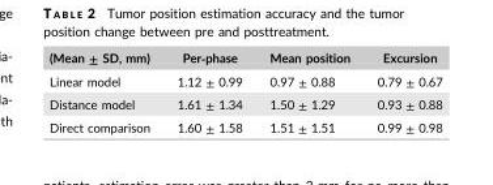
<table><thead><tr><td>(Mean ± SD, mm)</td><td>Per‐phase</td><td>Mean position</td><td>Excursion</td></tr></thead><tbody><tr><td>Linear model</td><td>1.12 ± 0.99</td><td>0.97 ± 0.88</td><td>0.79 ± 0.67</td></tr><tr><td>Distance model</td><td>1.61 ± 1.34</td><td>1.50 ± 1.29</td><td>0.93 ± 0.88</td></tr><tr><td>Direct comparison</td><td>1.60 ± 1.58</td><td>1.51 ± 1.51</td><td>0.99 ± 0.98</td></tr></tbody></table>